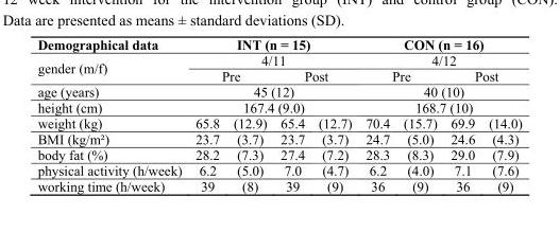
<table><thead><tr><td>Demographical data</td><td colspan="4">INT (n = 15)</td><td colspan="4">CON (n = 16)</td></tr></thead><tbody><tr><td rowspan="2">gender (m/f)</td><td colspan="4">4/11</td><td colspan="4">4/12</td></tr><tr><td colspan="2">Pre</td><td colspan="2">Post</td><td colspan="2">Pre</td><td colspan="2">Post</td></tr><tr><td>age (years)</td><td colspan="4">45 (12)</td><td colspan="4">40 (10)</td></tr><tr><td>height (cm)</td><td colspan="4">167.4 (9.0)</td><td colspan="4">168.7 (10)</td></tr><tr><td>weight (kg)</td><td>65.8</td><td>(12.9)</td><td>65.4</td><td>(12.7)</td><td>70.4</td><td>(15.7)</td><td>69.9</td><td>(14.0)</td></tr><tr><td>BMI (kg/m²)</td><td>23.7</td><td>(3.7)</td><td>23.7</td><td>(3.7)</td><td>24.7</td><td>(5.0)</td><td>24.6</td><td>(4.3)</td></tr><tr><td>body fat (%)</td><td>28.2</td><td>(7.3)</td><td>27.4</td><td>(7.2)</td><td>28.3</td><td>(8.3)</td><td>29.0</td><td>(7.9)</td></tr><tr><td>physical activity (h/week)</td><td>6.2</td><td>(5.0)</td><td>7.0</td><td>(4.7)</td><td>6.2</td><td>(4.0)</td><td>7.1</td><td>(7.6)</td></tr><tr><td>working time (h/week)</td><td>39</td><td>(8)</td><td>39</td><td>(9)</td><td>36</td><td>(9)</td><td>36</td><td>(9)</td></tr></tbody></table>